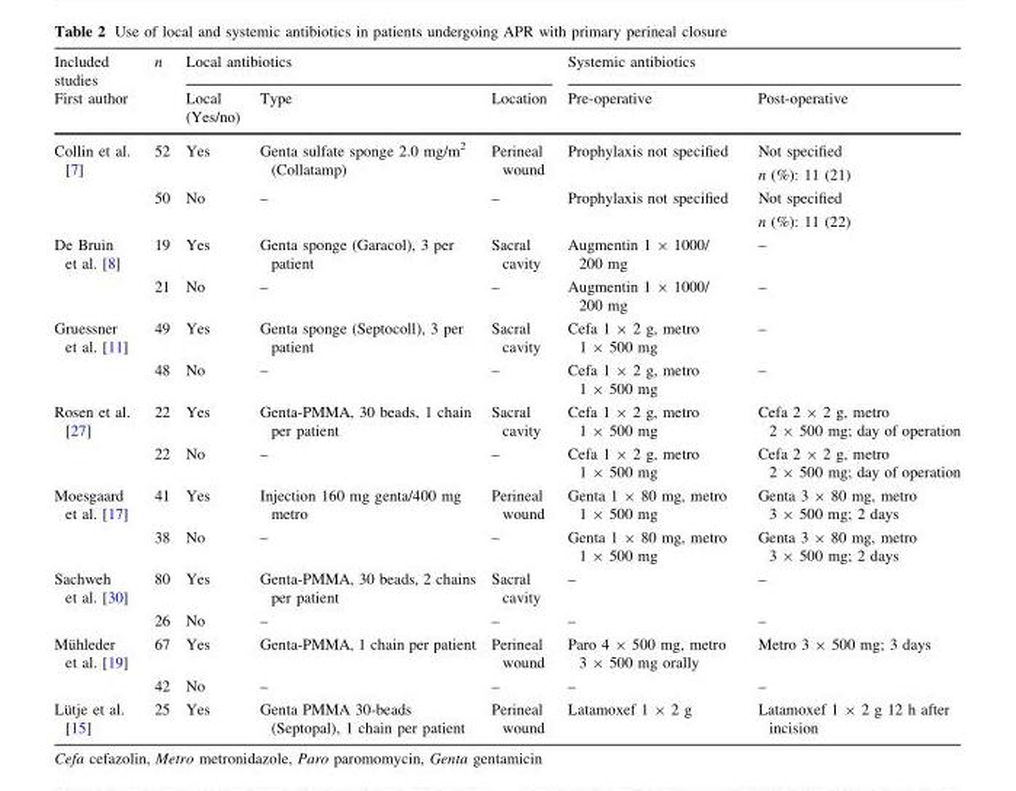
<table><thead><tr><td rowspan="2">Included studies First author</td><td rowspan="2">n</td><td colspan="3">Local antibiotics</td><td colspan="2">Systemic antibiotics</td></tr><tr><td>Local (Yes/no)</td><td>Type</td><td>Location</td><td>Pre-operative</td><td>Post-operative</td></tr></thead><tbody><tr><td rowspan="2">Collin et al. [7]</td><td>52</td><td>Yes</td><td>Genta sulfate sponge 2.0 mg/m<sup>2</sup> (Collatamp)</td><td>Perineal wound</td><td>Prophylaxis not specified</td><td>Not specified n (%): 11 (21)</td></tr><tr><td>50</td><td>No</td><td>–</td><td>–</td><td>Prophylaxis not specified</td><td>Not specified n (%): 11 (22)</td></tr><tr><td rowspan="2">De Bruin et al. [8]</td><td>19</td><td>Yes</td><td>Genta sponge (Garacol), 3 per patient</td><td>Sacral cavity</td><td>Augmentin 1 × 1000/ 200 mg</td><td>–</td></tr><tr><td>21</td><td>No</td><td>–</td><td>–</td><td>Augmentin 1 × 1000/ 200 mg</td><td>–</td></tr><tr><td rowspan="2">Gruessner et al. [11]</td><td>49</td><td>Yes</td><td>Genta sponge (Septocoll), 3 per patient</td><td>Sacral cavity</td><td>Cefa 1 × 2 g, metro 1 × 500 mg</td><td>–</td></tr><tr><td>48</td><td>No</td><td>–</td><td>–</td><td>Cefa 1 × 2 g, metro 1 × 500 mg</td><td>–</td></tr><tr><td rowspan="2">Rosen et al. [27]</td><td>22</td><td>Yes</td><td>Genta-PMMA, 30 beads, 1 chain per patient</td><td>Sacral cavity</td><td>Cefa 1 × 2 g, metro 1 × 500 mg</td><td>Cefa 2 × 2 g, metro 2 × 500 mg; day of operation</td></tr><tr><td>22</td><td>No</td><td>–</td><td>–</td><td>Cefa 1 × 2 g, metro 1 × 500 mg</td><td>Cefa 2 × 2 g, metro 2 × 500 mg; day of operation</td></tr><tr><td rowspan="2">Moesgaard et al. [17]</td><td>41</td><td>Yes</td><td>Injection 160 mg genta/400 mg metro</td><td>Perineal wound</td><td>Genta 1 × 80 mg, metro 1 × 500 mg</td><td>Genta 3 × 80 mg, metro 3 × 500 mg; 2 days</td></tr><tr><td>38</td><td>No</td><td>–</td><td>–</td><td>Genta 1 × 80 mg, metro 1 × 500 mg</td><td>Genta 3 × 80 mg, metro 3 × 500 mg; 2 days</td></tr><tr><td rowspan="2">Sachweh et al. [30]</td><td>80</td><td>Yes</td><td>Genta-PMMA, 30 beads, 2 chains per patient</td><td>Sacral cavity</td><td>–</td><td>–</td></tr><tr><td>26</td><td>No</td><td>–</td><td>–</td><td>–</td><td>–</td></tr><tr><td rowspan="2">Mu¨hleder et al. [19]</td><td>67</td><td>Yes</td><td>Genta-PMMA, 1 chain per patient</td><td>Perineal wound</td><td>Paro 4 × 500 mg, metro 3 × 500 mg orally</td><td>Metro 3 × 500 mg; 3 days</td></tr><tr><td>42</td><td>No</td><td>–</td><td>–</td><td>–</td><td>–</td></tr><tr><td>Lu¨tje et al. [15]</td><td>25</td><td>Yes</td><td>Genta PMMA 30-beads (Septopal), 1 chain per patient</td><td>Perineal wound</td><td>Latamoxef 1 × 2 g</td><td>Latamoxef 1 × 2 g 12 h after incision</td></tr></tbody></table>